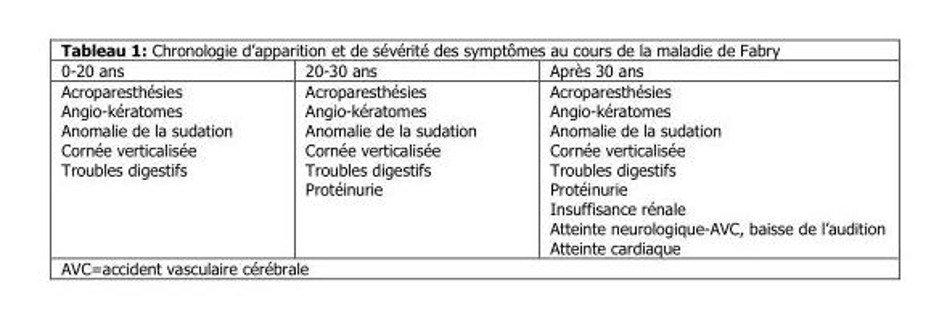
<table><thead><tr><td>0-20 ans</td><td>20-30 ans</td><td>Après 30 ans</td></tr></thead><tbody><tr><td>Acroparesthésies Angio-kératomes Anomalie de la sudation Cornée verticalisée Troubles digestifs</td><td>Acroparesthésies Angio-kératomes Anomalie de la sudation Cornée verticalisée Troubles digestifs Protéinurie</td><td>Acroparesthésies Angio-kératomes Anomalie de la sudation Cornée verticalisée Troubles digestifs Protéinurie Insuffisance rénale Atteinte neurologique-AVC, baisse de l’audition Atteinte cardiaque</td></tr></tbody></table>